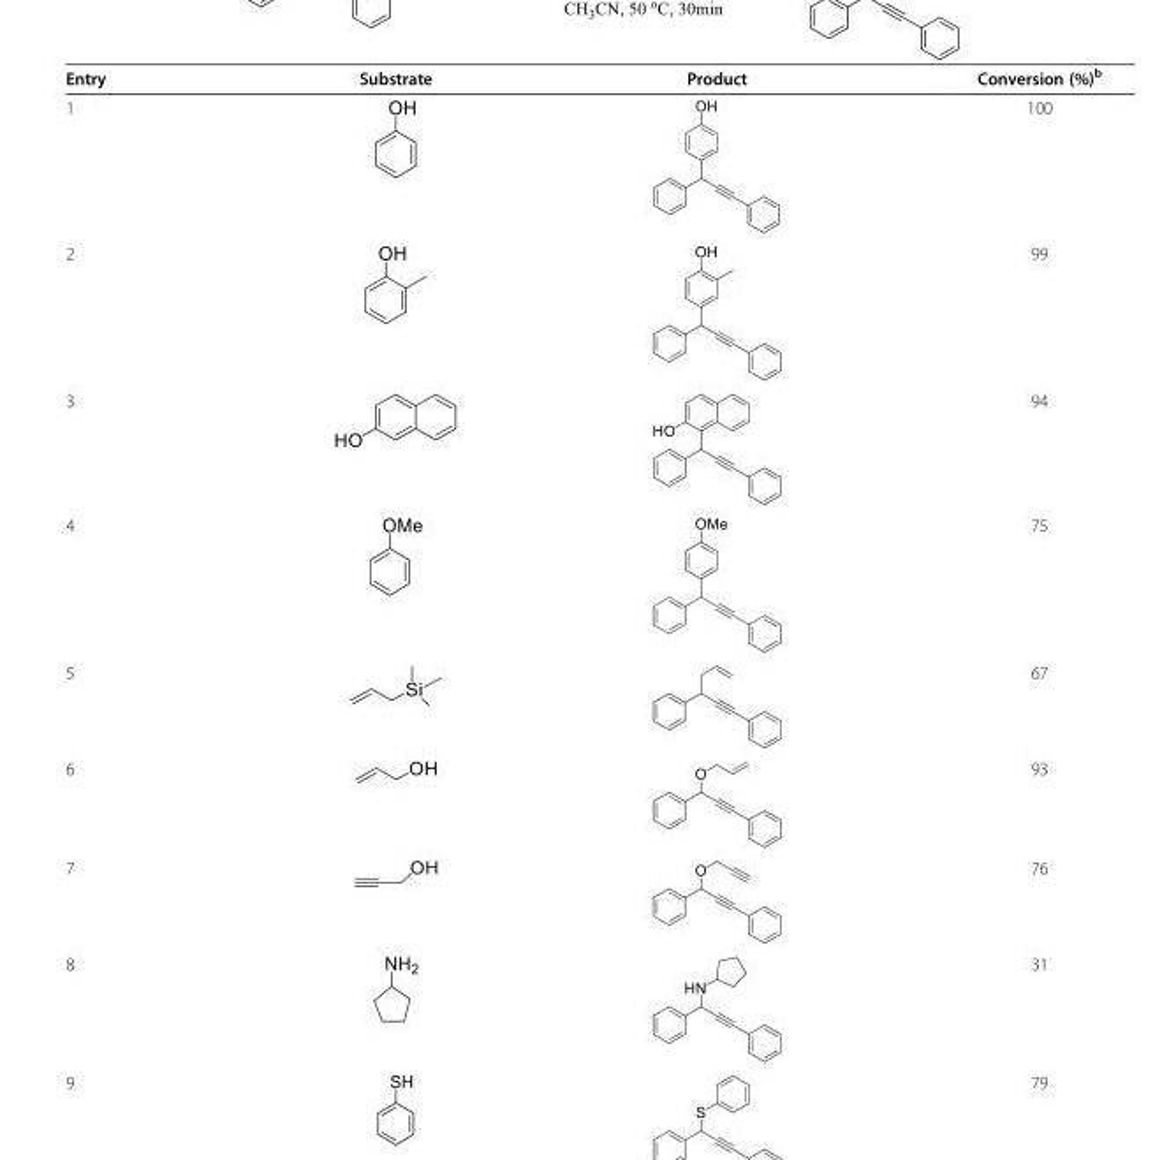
<table><thead><tr><td>Entry</td><td>Substrate</td><td>Product</td><td>Conversion (%)<sup>b</sup></td></tr></thead><tbody><tr><td>1</td><td></td><td></td><td>100</td></tr><tr><td>2</td><td></td><td></td><td>99</td></tr><tr><td>3</td><td></td><td></td><td>94</td></tr><tr><td>4</td><td></td><td></td><td>75</td></tr><tr><td>5</td><td></td><td></td><td>67</td></tr><tr><td>6</td><td></td><td></td><td>93</td></tr><tr><td>7</td><td></td><td></td><td>76</td></tr><tr><td>8</td><td></td><td></td><td>31</td></tr><tr><td>9</td><td></td><td></td><td>79</td></tr></tbody></table>